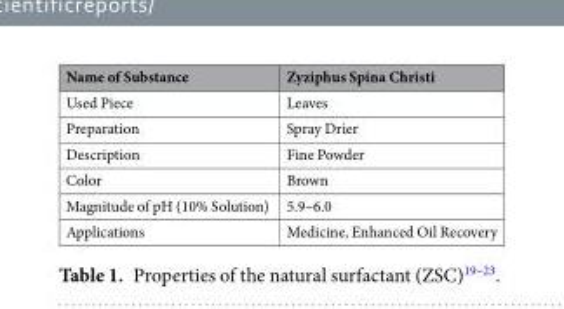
<table><thead><tr><td>Name of Substance</td><td>Zyziphus Spina Christi</td></tr></thead><tbody><tr><td>Used Piece</td><td>Leaves</td></tr><tr><td>Preparation</td><td>Spray Drier</td></tr><tr><td>Description</td><td>Fine Powder</td></tr><tr><td>Color</td><td>Brown</td></tr><tr><td>Magnitude of pH (10% Solution)</td><td>5.9–6.0</td></tr><tr><td>Applications</td><td>Medicine, Enhanced Oil Recovery</td></tr></tbody></table>